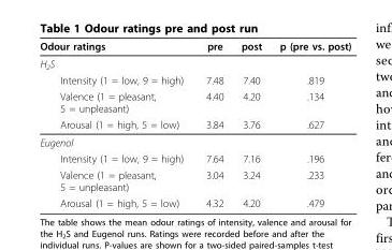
<table><thead><tr><td>Odour ratings</td><td>pre</td><td>post</td><td>p (pre vs. post)</td></tr></thead><tbody><tr><td colspan="4">H<sub>2</sub>S</td></tr><tr><td>Intensity (1 = low, 9 = high)</td><td>7.48</td><td>7.40</td><td>.819</td></tr><tr><td>Valence (1 = pleasant, 5 = unpleasant)</td><td>4.40</td><td>4.20</td><td>.134</td></tr><tr><td>Arousal (1 = high, 5 = low)</td><td>3.84</td><td>3.76</td><td>.627</td></tr><tr><td colspan="4">Eugenol</td></tr><tr><td>Intensity (1 = low, 9 = high)</td><td>7.64</td><td>7.16</td><td>.196</td></tr><tr><td>Valence (1 = pleasant, 5 = unpleasant)</td><td>3.04</td><td>3.24</td><td>.233</td></tr><tr><td>Arousal (1 = high, 5 = low)</td><td>4.32</td><td>4.20</td><td>.479</td></tr></tbody></table>